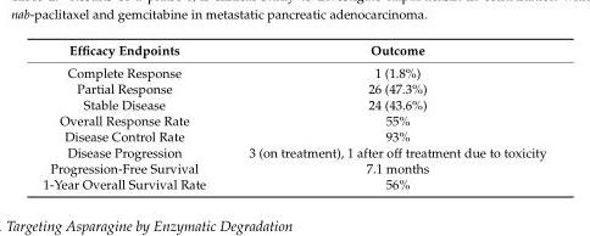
<table><thead><tr><td>Efficacy Endpoints</td><td>Outcome</td></tr></thead><tbody><tr><td>Complete Response</td><td>1 (1.8%)</td></tr><tr><td>Partial Response</td><td>26 (47.3%)</td></tr><tr><td>Stable Disease</td><td>24 (43.6%)</td></tr><tr><td>Overall Response Rate</td><td>55%</td></tr><tr><td>Disease Control Rate</td><td>93%</td></tr><tr><td>Disease Progression</td><td>3 (on treatment), 1 after off treatment due to toxicity</td></tr><tr><td>Progression-Free Survival</td><td>7.1 months</td></tr><tr><td>1-Year Overall Survival Rate</td><td>56%</td></tr></tbody></table>